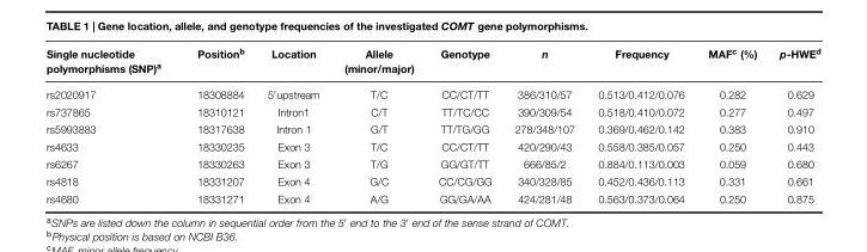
<table><thead><tr><td>Single nucleotide polymorphisms (SNP)<sup>a</sup></td><td>Position<sup>b</sup></td><td>Location</td><td>Allele (minor/major)</td><td>Genotype</td><td>n</td><td>Frequency</td><td>MAF<sup>c</sup> (%)</td><td>p-HWE<sup>d</sup></td></tr></thead><tbody><tr><td>rs2020917</td><td>18308884</td><td>5′upstream</td><td>T/C</td><td>CC/CT/TT</td><td>386/310/57</td><td>0.513/0.412/0.076</td><td>0.282</td><td>0.629</td></tr><tr><td>rs737865</td><td>18310121</td><td>Intron1</td><td>C/T</td><td>TT/TC/CC</td><td>390/309/54</td><td>0.518/0.410/0.072</td><td>0.277</td><td>0.497</td></tr><tr><td>rs5993883</td><td>18317638</td><td>Intron 1</td><td>G/T</td><td>TT/TG/GG</td><td>278/348/107</td><td>0.369/0.462/0.142</td><td>0.383</td><td>0.910</td></tr><tr><td>rs4633</td><td>18330235</td><td>Exon 3</td><td>T/C</td><td>CC/CT/TT</td><td>420/290/43</td><td>0.558/0.385/0.057</td><td>0.250</td><td>0.443</td></tr><tr><td>rs6267</td><td>18330263</td><td>Exon 3</td><td>T/G</td><td>GG/GT/TT</td><td>666/85/2</td><td>0.884/0.113/0.003</td><td>0.059</td><td>0.680</td></tr><tr><td>rs4818</td><td>18331207</td><td>Exon 4</td><td>G/C</td><td>CC/CG/GG</td><td>340/328/85</td><td>0.452/0.436/0.113</td><td>0.331</td><td>0.661</td></tr><tr><td>rs4680</td><td>18331271</td><td>Exon 4</td><td>A/G</td><td>GG/GA/AA</td><td>424/281/48</td><td>0.563/0.373/0.064</td><td>0.250</td><td>0.875</td></tr></tbody></table>